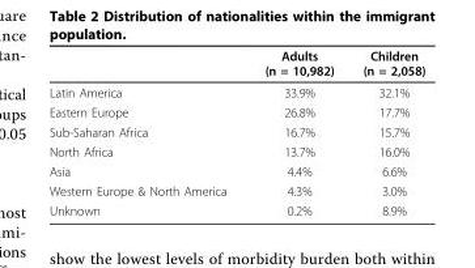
<table><thead><tr><td></td><td>Adults (n = 10,982)</td><td>Children (n = 2,058)</td></tr></thead><tbody><tr><td>Latin America</td><td>33.9%</td><td>32.1%</td></tr><tr><td>Eastern Europe</td><td>26.8%</td><td>17.7%</td></tr><tr><td>Sub-Saharan Africa</td><td>16.7%</td><td>15.7%</td></tr><tr><td>North Africa</td><td>13.7%</td><td>16.0%</td></tr><tr><td>Asia</td><td>4.4%</td><td>6.6%</td></tr><tr><td>Western Europe &amp; North America</td><td>4.3%</td><td>3.0%</td></tr><tr><td>Unknown</td><td>0.2%</td><td>8.9%</td></tr></tbody></table>